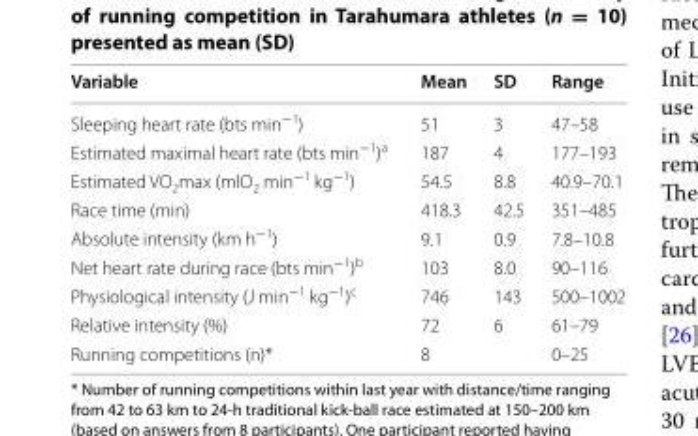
<table><thead><tr><td>Variable</td><td>Mean</td><td>SD</td><td>Range</td></tr></thead><tbody><tr><td>Sleeping heart rate (bts min<sup>−1</sup>)</td><td>51</td><td>3</td><td>47–58</td></tr><tr><td>Estimated maximal heart rate (bts min<sup>−1</sup>)<sup>a</sup></td><td>187</td><td>4</td><td>177–193</td></tr><tr><td>Estimated VO<sub>2</sub>max (mlO<sub>2</sub> min<sup>−1</sup> kg<sup>−1</sup>)</td><td>54.5</td><td>8.8</td><td>40.9–70.1</td></tr><tr><td>Race time (min)</td><td>418.3</td><td>42.5</td><td>351–485</td></tr><tr><td>Absolute intensity (km h<sup>−1</sup>)</td><td>9.1</td><td>0.9</td><td>7.8–10.8</td></tr><tr><td>Net heart rate during race (bts min<sup>−1</sup>)<sup>b</sup></td><td>103</td><td>8.0</td><td>90–116</td></tr><tr><td>Physiological intensity (J min<sup>−1</sup> kg<sup>−1</sup>)<sup>c</sup></td><td>746</td><td>143</td><td>500–1002</td></tr><tr><td>Relative intensity (%)</td><td>72</td><td>6</td><td>61–79</td></tr><tr><td>Running competitions (n)*</td><td>8</td><td></td><td>0–25</td></tr></tbody></table>